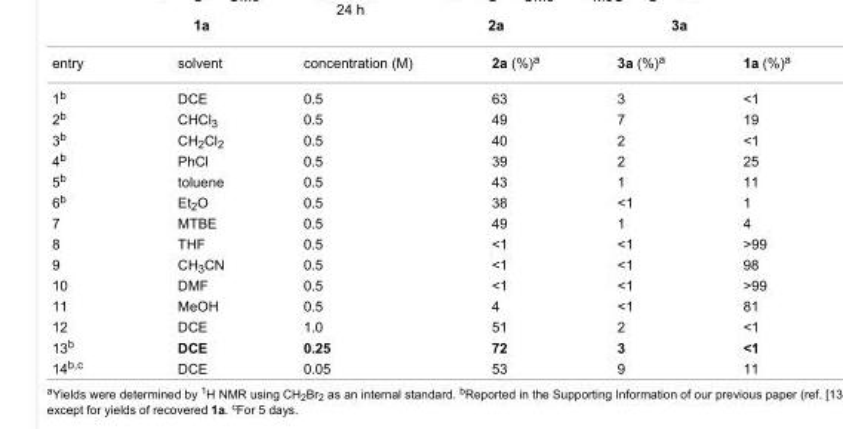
<table><tbody><tr><td>entry</td><td>solvent</td><td>concentration (M)</td><td>2a (%)<sup>a</sup></td><td>3a (%)<sup>a</sup></td><td>1a (%)<sup>a</sup></td></tr><tr><td>1<sup>b</sup></td><td>DCE</td><td>0.5</td><td>63</td><td>3</td><td>&lt;1</td></tr><tr><td>2<sup>b</sup></td><td>CHCl<sub>3</sub></td><td>0.5</td><td>49</td><td>7</td><td>19</td></tr><tr><td>3<sup>b</sup></td><td>CH<sub>2</sub>Cl<sub>2</sub></td><td>0.5</td><td>40</td><td>2</td><td>&lt;1</td></tr><tr><td>4<sup>b</sup></td><td>PhCl</td><td>0.5</td><td>39</td><td>2</td><td>25</td></tr><tr><td>5<sup>b</sup></td><td>toluene</td><td>0.5</td><td>43</td><td>1</td><td>11</td></tr><tr><td>6<sup>b</sup></td><td>Et<sub>2</sub>O</td><td>0.5</td><td>38</td><td>&lt;1</td><td>1</td></tr><tr><td>7</td><td>MTBE</td><td>0.5</td><td>49</td><td>1</td><td>4</td></tr><tr><td>8</td><td>THF</td><td>0.5</td><td>&lt;1</td><td>&lt;1</td><td>&gt;99</td></tr><tr><td>9</td><td>CH<sub>3</sub>CN</td><td>0.5</td><td>&lt;1</td><td>&lt;1</td><td>98</td></tr><tr><td>10</td><td>DMF</td><td>0.5</td><td>&lt;1</td><td>&lt;1</td><td>&gt;99</td></tr><tr><td>11</td><td>MeOH</td><td>0.5</td><td>4</td><td>&lt;1</td><td>81</td></tr><tr><td>12</td><td>DCE</td><td>1.0</td><td>51</td><td>2</td><td>&lt;1</td></tr><tr><td>13<sup>b</sup></td><td>DCE</td><td>0.25</td><td>72</td><td>3</td><td>&lt;1</td></tr><tr><td>14<sup>b,c</sup></td><td>DCE</td><td>0.05</td><td>53</td><td>9</td><td>11</td></tr></tbody></table>